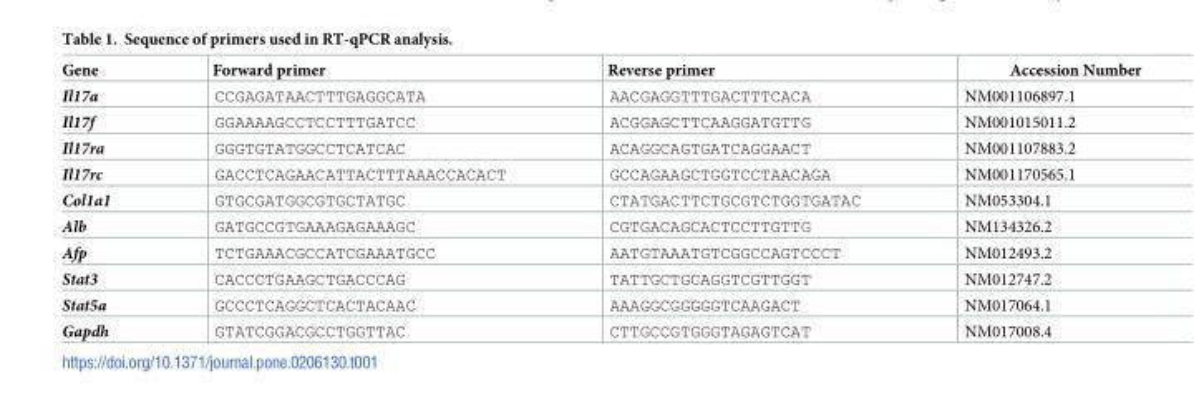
<table><thead><tr><td>Gene</td><td>Forward primer</td><td>Reverse primer</td><td>Accession Number</td></tr></thead><tbody><tr><td>Il17a</td><td>CCGAGATAACTTTGAGGCATA</td><td>AACGAGGTTTGACTTTCACA</td><td>NM001106897.1</td></tr><tr><td>Il17f</td><td>GGAAAAGCCTCCTTTGATCC</td><td>ACGGAGCTTCAAGGATGTTG</td><td>NM001015011.2</td></tr><tr><td>Il17ra</td><td>GGGTGTATGGCCTCATCAC</td><td>ACAGGCAGTGATCAGGAACT</td><td>NM001107883.2</td></tr><tr><td>Il17rc</td><td>GACCTCAGAACATTACTTTAAACCACACT</td><td>GCCAGAAGCTGGTCCTAACAGA</td><td>NM001170565.1</td></tr><tr><td>Col1a1</td><td>GTGCGATGGCGTGCTATGC</td><td>CTATGACTTCTGCGTCTGGTGATAC</td><td>NM053304.1</td></tr><tr><td>Alb</td><td>GATGCCGTGAAAGAGAAAGC</td><td>CGTGACAGCACTCCTTGTTG</td><td>NM134326.2</td></tr><tr><td>Afp</td><td>TCTGAAACGCCATCGAAATGCC</td><td>AATGTAAATGTCGGCCAGTCCCT</td><td>NM012493.2</td></tr><tr><td>Stat3</td><td>CACCCTGAAGCTGACCCAG</td><td>TATTGCTGCAGGTCGTTGGT</td><td>NM012747.2</td></tr><tr><td>Stat5a</td><td>GCCCTCAGGCTCACTACAAC</td><td>AAAGGCGGGGGTCAAGACT</td><td>NM017064.1</td></tr><tr><td>Gapdh</td><td>GTATCGGACGCCTGGTTAC</td><td>CTTGCCGTGGGTAGAGTCAT</td><td>NM017008.4</td></tr></tbody></table>